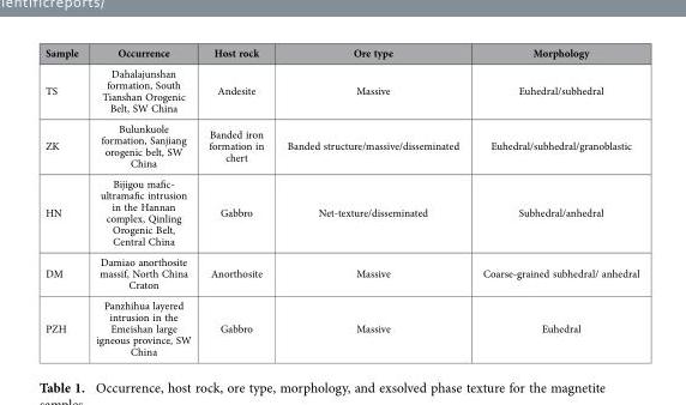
<table><thead><tr><td>Sample</td><td>Occurrence</td><td>Host rock</td><td>Ore type</td><td>Morphology</td></tr></thead><tbody><tr><td>TS</td><td>Dahalajunshan formation, South Tianshan Orogenic Belt, SW China</td><td>Andesite</td><td>Massive</td><td>Euhedral/subhedral</td></tr><tr><td>ZK</td><td>Bulunkuole formation, Sanjiang orogenic belt, SW China</td><td>Banded iron formation in chert</td><td>Banded structure/massive/disseminated</td><td>Euhedral/subhedral/granoblastic</td></tr><tr><td>HN</td><td>Bijigou mafic- ultramafic intrusion in the Hannan complex, Qinling Orogenic Belt, Central China</td><td>Gabbro</td><td>Net-texture/disseminated</td><td>Subhedral/anhedral</td></tr><tr><td>DM</td><td>Damiao anorthosite massif, North China Craton</td><td>Anorthosite</td><td>Massive</td><td>Coarse-grained subhedral/ anhedral</td></tr><tr><td>PZH</td><td>Panzhihua layered intrusion in the Emeishan large igneous province, SW China</td><td>Gabbro</td><td>Massive</td><td>Euhedral</td></tr></tbody></table>